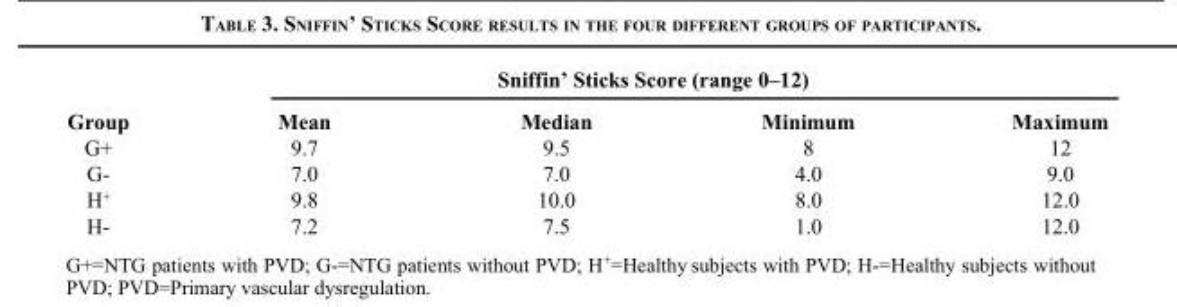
<table><thead><tr><td rowspan="2">Group</td><td colspan="4">Sniffin’ Sticks Score (range 0–12)</td></tr><tr><td>Mean</td><td>Median</td><td>Minimum</td><td>Maximum</td></tr></thead><tbody><tr><td>G+</td><td>9.7</td><td>9.5</td><td>8</td><td>12</td></tr><tr><td>G-</td><td>7.0</td><td>7.0</td><td>4.0</td><td>9.0</td></tr><tr><td>H<sup>+</sup></td><td>9.8</td><td>10.0</td><td>8.0</td><td>12.0</td></tr><tr><td>H-</td><td>7.2</td><td>7.5</td><td>1.0</td><td>12.0</td></tr></tbody></table>